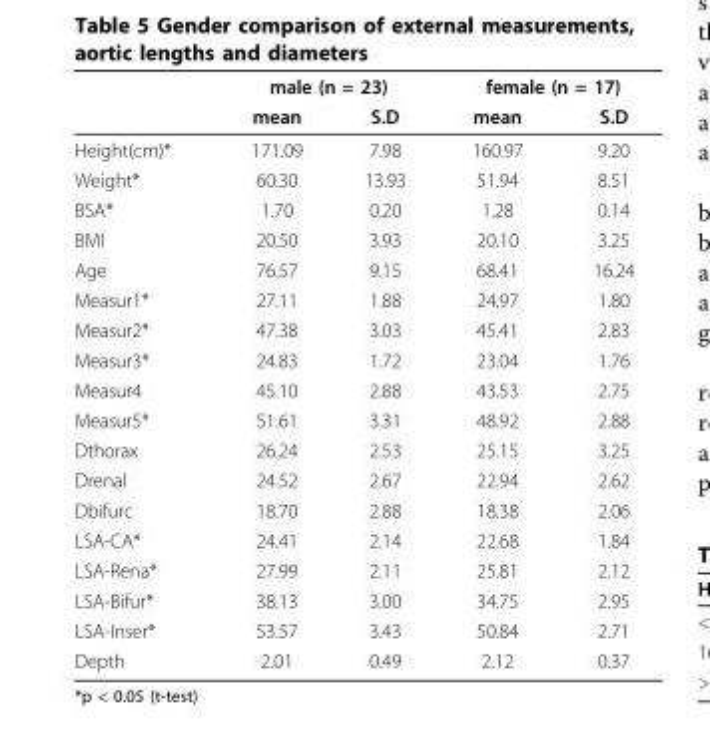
<table><thead><tr><td rowspan="2"></td><td colspan="2">male (n = 23)</td><td colspan="2">female (n = 17)</td></tr><tr><td>mean</td><td>S.D</td><td>mean</td><td>S.D</td></tr></thead><tbody><tr><td>Height(cm)*</td><td>171.09</td><td>7.98</td><td>160.97</td><td>9.20</td></tr><tr><td>Weight*</td><td>60.30</td><td>13.93</td><td>51.94</td><td>8.51</td></tr><tr><td>BSA*</td><td>1.70</td><td>0.20</td><td>1.28</td><td>0.14</td></tr><tr><td>BMI</td><td>20.50</td><td>3.93</td><td>20.10</td><td>3.25</td></tr><tr><td>Age</td><td>76.57</td><td>9.15</td><td>68.41</td><td>16.24</td></tr><tr><td>Measur1*</td><td>27.11</td><td>1.88</td><td>24.97</td><td>1.80</td></tr><tr><td>Measur2*</td><td>47.38</td><td>3.03</td><td>45.41</td><td>2.83</td></tr><tr><td>Measur3*</td><td>24.83</td><td>1.72</td><td>23.04</td><td>1.76</td></tr><tr><td>Measur4</td><td>45.10</td><td>2.88</td><td>43.53</td><td>2.75</td></tr><tr><td>Measur5*</td><td>51.61</td><td>3.31</td><td>48.92</td><td>2.88</td></tr><tr><td>Dthorax</td><td>26.24</td><td>2.53</td><td>25.15</td><td>3.25</td></tr><tr><td>Drenal</td><td>24.52</td><td>2.67</td><td>22.94</td><td>2.62</td></tr><tr><td>Dbifurc</td><td>18.70</td><td>2.88</td><td>18.38</td><td>2.06</td></tr><tr><td>LSA-CA*</td><td>24.41</td><td>2.14</td><td>22.68</td><td>1.84</td></tr><tr><td>LSA-Rena*</td><td>27.99</td><td>2.11</td><td>25.81</td><td>2.12</td></tr><tr><td>LSA-Bifur*</td><td>38.13</td><td>3.00</td><td>34.75</td><td>2.95</td></tr><tr><td>LSA-Inser*</td><td>53.57</td><td>3.43</td><td>50.84</td><td>2.71</td></tr><tr><td>Depth</td><td>2.01</td><td>0.49</td><td>2.12</td><td>0.37</td></tr></tbody></table>